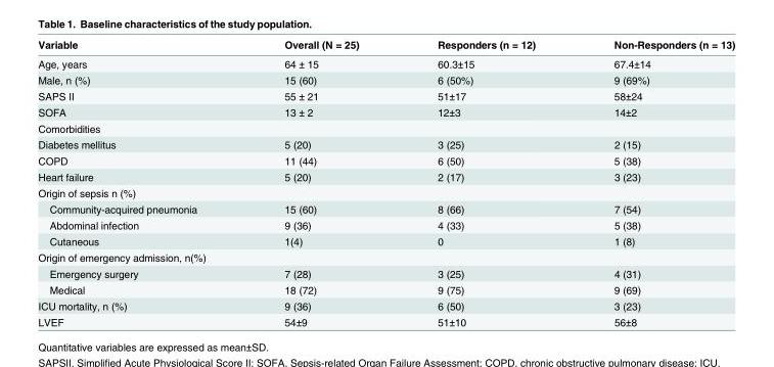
<table><thead><tr><td>Variable</td><td>Overall (N = 25)</td><td>Responders (n = 12)</td><td>Non-Responders (n = 13)</td></tr></thead><tbody><tr><td>Age, years</td><td>64 ± 15</td><td>60.3±15</td><td>67.4±14</td></tr><tr><td>Male, n (%)</td><td>15 (60)</td><td>6 (50%)</td><td>9 (69%)</td></tr><tr><td>SAPS II</td><td>55 ± 21</td><td>51±17</td><td>58±24</td></tr><tr><td>SOFA</td><td>13 ± 2</td><td>12±3</td><td>14±2</td></tr><tr><td colspan="4">Comorbidities</td></tr><tr><td>Diabetes mellitus</td><td>5 (20)</td><td>3 (25)</td><td>2 (15)</td></tr><tr><td>COPD</td><td>11 (44)</td><td>6 (50)</td><td>5 (38)</td></tr><tr><td>Heart failure</td><td>5 (20)</td><td>2 (17)</td><td>3 (23)</td></tr><tr><td colspan="4">Origin of sepsis n (%)</td></tr><tr><td>Community-acquired pneumonia</td><td>15 (60)</td><td>8 (66)</td><td>7 (54)</td></tr><tr><td>Abdominal infection</td><td>9 (36)</td><td>4 (33)</td><td>5 (38)</td></tr><tr><td>Cutaneous</td><td>1(4)</td><td>0</td><td>1 (8)</td></tr><tr><td colspan="4">Origin of emergency admission, n(%)</td></tr><tr><td>Emergency surgery</td><td>7 (28)</td><td>3 (25)</td><td>4 (31)</td></tr><tr><td>Medical</td><td>18 (72)</td><td>9 (75)</td><td>9 (69)</td></tr><tr><td>ICU mortality, n (%)</td><td>9 (36)</td><td>6 (50)</td><td>3 (23)</td></tr><tr><td>LVEF</td><td>54±9</td><td>51±10</td><td>56±8</td></tr></tbody></table>